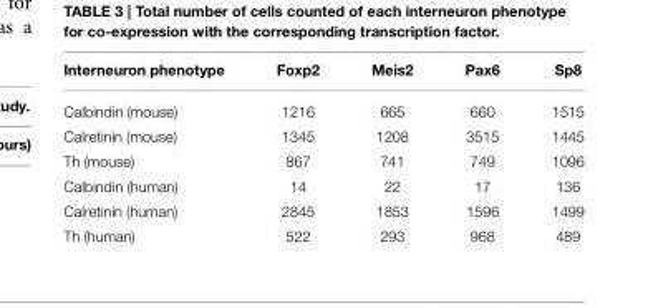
<table><thead><tr><td>Interneuron phenotype</td><td>Foxp2</td><td>Meis2</td><td>Pax6</td><td>Sp8</td></tr></thead><tbody><tr><td>Calbindin (mouse)</td><td>1216</td><td>665</td><td>660</td><td>1515</td></tr><tr><td>Calretinin (mouse)</td><td>1345</td><td>1208</td><td>3515</td><td>1445</td></tr><tr><td>Th (mouse)</td><td>867</td><td>741</td><td>749</td><td>1096</td></tr><tr><td>Calbindin (human)</td><td>14</td><td>22</td><td>17</td><td>136</td></tr><tr><td>Calretinin (human)</td><td>2845</td><td>1853</td><td>1596</td><td>1499</td></tr><tr><td>Th (human)</td><td>522</td><td>293</td><td>968</td><td>489</td></tr></tbody></table>